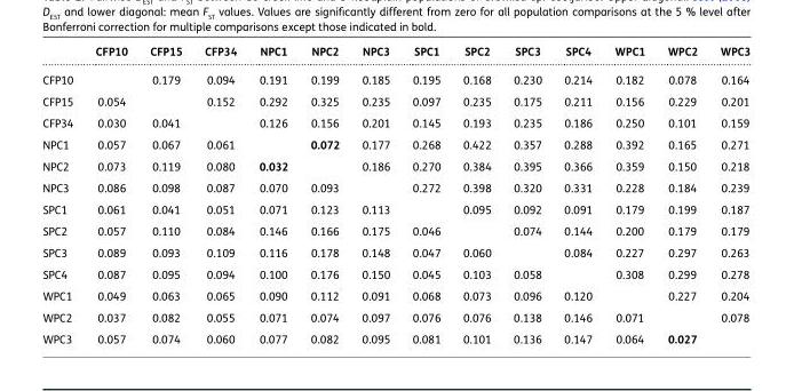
<table><thead><tr><td></td><td>CFP10</td><td>CFP15</td><td>CFP34</td><td>NPC1</td><td>NPC2</td><td>NPC3</td><td>SPC1</td><td>SPC2</td><td>SPC3</td><td>SPC4</td><td>WPC1</td><td>WPC2</td><td>WPC3</td></tr></thead><tbody><tr><td>CFP10</td><td></td><td>0.179</td><td>0.094</td><td>0.191</td><td>0.199</td><td>0.185</td><td>0.195</td><td>0.168</td><td>0.230</td><td>0.214</td><td>0.182</td><td>0.078</td><td>0.164</td></tr><tr><td>CFP15</td><td>0.054</td><td></td><td>0.152</td><td>0.292</td><td>0.325</td><td>0.235</td><td>0.097</td><td>0.235</td><td>0.175</td><td>0.211</td><td>0.156</td><td>0.229</td><td>0.201</td></tr><tr><td>CFP34</td><td>0.030</td><td>0.041</td><td></td><td>0.126</td><td>0.156</td><td>0.201</td><td>0.145</td><td>0.193</td><td>0.235</td><td>0.186</td><td>0.250</td><td>0.101</td><td>0.159</td></tr><tr><td>NPC1</td><td>0.057</td><td>0.067</td><td>0.061</td><td></td><td>0.072</td><td>0.177</td><td>0.268</td><td>0.422</td><td>0.357</td><td>0.288</td><td>0.392</td><td>0.165</td><td>0.271</td></tr><tr><td>NPC2</td><td>0.073</td><td>0.119</td><td>0.080</td><td>0.032</td><td></td><td>0.186</td><td>0.270</td><td>0.384</td><td>0.395</td><td>0.366</td><td>0.359</td><td>0.150</td><td>0.218</td></tr><tr><td>NPC3</td><td>0.086</td><td>0.098</td><td>0.087</td><td>0.070</td><td>0.093</td><td></td><td>0.272</td><td>0.398</td><td>0.320</td><td>0.331</td><td>0.228</td><td>0.184</td><td>0.239</td></tr><tr><td>SPC1</td><td>0.061</td><td>0.041</td><td>0.051</td><td>0.071</td><td>0.123</td><td>0.113</td><td></td><td>0.095</td><td>0.092</td><td>0.091</td><td>0.179</td><td>0.199</td><td>0.187</td></tr><tr><td>SPC2</td><td>0.057</td><td>0.110</td><td>0.084</td><td>0.146</td><td>0.166</td><td>0.175</td><td>0.046</td><td></td><td>0.074</td><td>0.144</td><td>0.200</td><td>0.179</td><td>0.179</td></tr><tr><td>SPC3</td><td>0.089</td><td>0.093</td><td>0.109</td><td>0.116</td><td>0.178</td><td>0.148</td><td>0.047</td><td>0.060</td><td></td><td>0.084</td><td>0.227</td><td>0.297</td><td>0.263</td></tr><tr><td>SPC4</td><td>0.087</td><td>0.095</td><td>0.094</td><td>0.100</td><td>0.176</td><td>0.150</td><td>0.045</td><td>0.103</td><td>0.058</td><td></td><td>0.308</td><td>0.299</td><td>0.278</td></tr><tr><td>WPC1</td><td>0.049</td><td>0.063</td><td>0.065</td><td>0.090</td><td>0.112</td><td>0.091</td><td>0.068</td><td>0.073</td><td>0.096</td><td>0.120</td><td></td><td>0.227</td><td>0.204</td></tr><tr><td>WPC2</td><td>0.037</td><td>0.082</td><td>0.055</td><td>0.071</td><td>0.074</td><td>0.097</td><td>0.076</td><td>0.076</td><td>0.138</td><td>0.146</td><td>0.071</td><td></td><td>0.078</td></tr><tr><td>WPC3</td><td>0.057</td><td>0.074</td><td>0.060</td><td>0.077</td><td>0.082</td><td>0.095</td><td>0.081</td><td>0.101</td><td>0.136</td><td>0.147</td><td>0.064</td><td>0.027</td><td></td></tr></tbody></table>